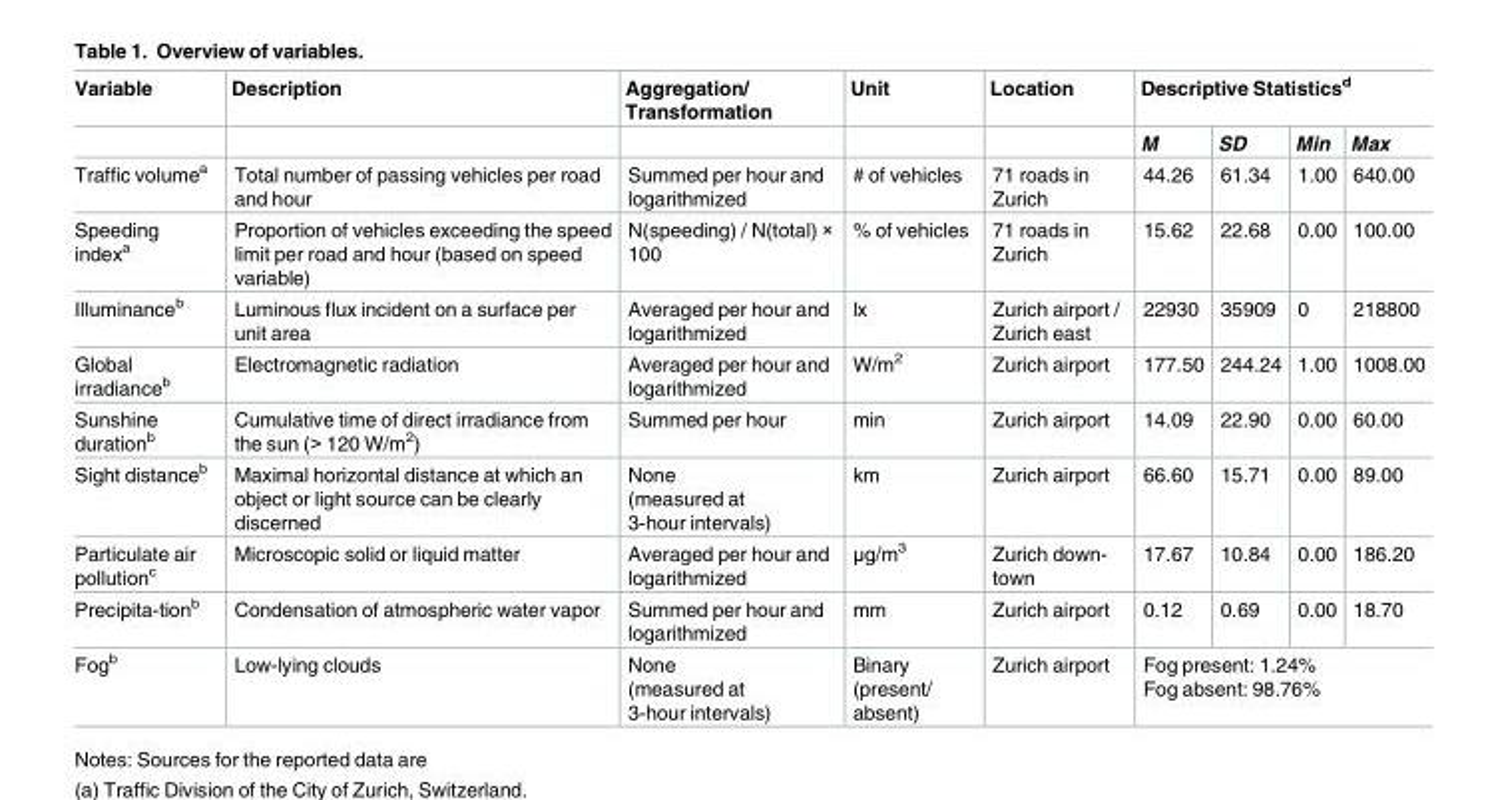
<table><thead><tr><td rowspan="2">Variable</td><td rowspan="2">Description</td><td rowspan="2">Aggregation/ Transformation</td><td rowspan="2">Unit</td><td rowspan="2">Location</td><td colspan="4">Descriptive Statistics<sup>d</sup></td></tr><tr><td>M</td><td>SD</td><td>Min</td><td>Max</td></tr></thead><tbody><tr><td>Traffic volume<sup>a</sup></td><td>Total number of passing vehicles per road and hour</td><td>Summed per hour and logarithmized</td><td># of vehicles</td><td>71 roads in Zurich</td><td>44.26</td><td>61.34</td><td>1.00</td><td>640.00</td></tr><tr><td>Speeding index<sup>a</sup></td><td>Proportion of vehicles exceeding the speed limit per road and hour (based on speed variable)</td><td>N(speeding) / N(total) × 100</td><td>% of vehicles</td><td>71 roads in Zurich</td><td>15.62</td><td>22.68</td><td>0.00</td><td>100.00</td></tr><tr><td>Illuminance<sup>b</sup></td><td>Luminous flux incident on a surface per unit area</td><td>Averaged per hour and logarithmized</td><td>lx</td><td>Zurich airport / Zurich east</td><td>22930</td><td>35909</td><td>0</td><td>218800</td></tr><tr><td>Global irradiance<sup>b</sup></td><td>Electromagnetic radiation</td><td>Averaged per hour and logarithmized</td><td>W/m<sup>2</sup></td><td>Zurich airport</td><td>177.50</td><td>244.24</td><td>1.00</td><td>1008.00</td></tr><tr><td>Sunshine duration<sup>b</sup></td><td>Cumulative time of direct irradiance from the sun (&gt; 120 W/m<sup>2</sup>)</td><td>Summed per hour</td><td>min</td><td>Zurich airport</td><td>14.09</td><td>22.90</td><td>0.00</td><td>60.00</td></tr><tr><td>Sight distance<sup>b</sup></td><td>Maximal horizontal distance at which an object or light source can be clearly discerned</td><td>None (measured at 3-hour intervals)</td><td>km</td><td>Zurich airport</td><td>66.60</td><td>15.71</td><td>0.00</td><td>89.00</td></tr><tr><td>Particulate air pollution<sup>c</sup></td><td>Microscopic solid or liquid matter</td><td>Averaged per hour and logarithmized</td><td>μg/m<sup>3</sup></td><td>Zurich down- town</td><td>17.67</td><td>10.84</td><td>0.00</td><td>186.20</td></tr><tr><td>Precipita-tion<sup>b</sup></td><td>Condensation of atmospheric water vapor</td><td>Summed per hour and logarithmized</td><td>mm</td><td>Zurich airport</td><td>0.12</td><td>0.69</td><td>0.00</td><td>18.70</td></tr><tr><td>Fog<sup>b</sup></td><td>Low-lying clouds</td><td>None (measured at 3-hour intervals)</td><td>Binary (present/ absent)</td><td>Zurich airport</td><td colspan="4">Fog present: 1.24% Fog absent: 98.76%</td></tr></tbody></table>